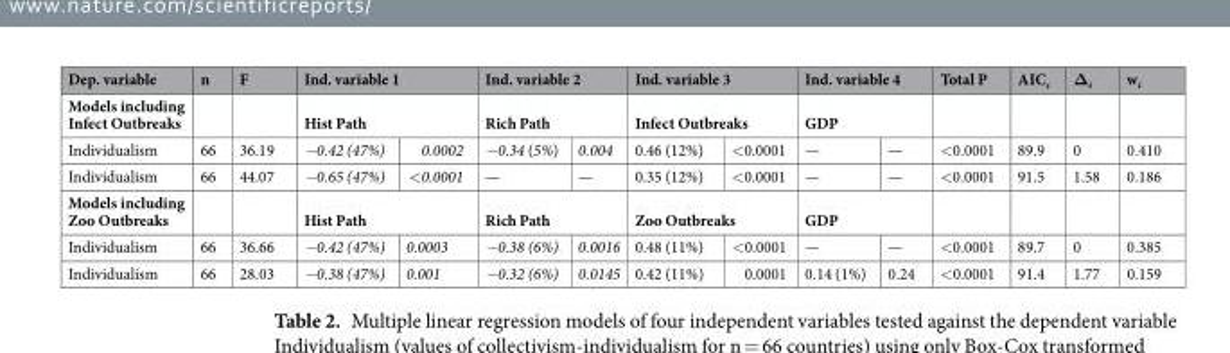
<table><thead><tr><td rowspan="3">Dep. variable Models including Infect Outbreaks Individualism</td><td rowspan="3">n 66</td><td rowspan="3">F 36.19</td><td rowspan="2" colspan="2">Ind. variable 1 Hist Path</td><td rowspan="2" colspan="2">Ind. variable 2 Rich Path</td><td rowspan="2" colspan="2">Ind. variable 3 Infect Outbreaks</td><td rowspan="2" colspan="2">Ind. variable 4 GDP</td><td rowspan="3">Total P &lt;0.0001</td><td rowspan="3">AIC<sub>c</sub> 89.9</td><td rowspan="3">Δ<sub>i</sub> 0</td><td rowspan="3">w<sub>i</sub> 0.410</td></tr><tr></tr><tr><td>−0.42 (47%)</td><td>0.0002</td><td>−0.34 (5%)</td><td>0.004</td><td>0.46 (12%)</td><td>&lt;0.0001</td><td>—</td><td>—</td></tr></thead><tbody><tr><td>Individualism</td><td>66</td><td>44.07</td><td>−0.65 (47%)</td><td>&lt;0.0001</td><td>—</td><td>—</td><td>0.35 (12%)</td><td>&lt;0.0001</td><td>—</td><td>—</td><td>&lt;0.0001</td><td>91.5</td><td>1.58</td><td>0.186</td></tr><tr><td>Models including Zoo Outbreaks</td><td></td><td></td><td colspan="2">Hist Path</td><td colspan="2">Rich Path</td><td colspan="2">Zoo Outbreaks</td><td colspan="2">GDP</td><td></td><td></td><td></td><td></td></tr><tr><td>Individualism</td><td>66</td><td>36.66</td><td>−0.42 (47%)</td><td>0.0003</td><td>−0.38 (6%)</td><td>0.0016</td><td>0.48 (11%)</td><td>&lt;0.0001</td><td>—</td><td>—</td><td>&lt;0.0001</td><td>89.7</td><td>0</td><td>0.385</td></tr><tr><td>Individualism</td><td>66</td><td>28.03</td><td>−0.38 (47%)</td><td>0.001</td><td>−0.32 (6%)</td><td>0.0145</td><td>0.42 (11%)</td><td>0.0001</td><td>0.14 (1%)</td><td>0.24</td><td>&lt;0.0001</td><td>91.4</td><td>1.77</td><td>0.159</td></tr></tbody></table>